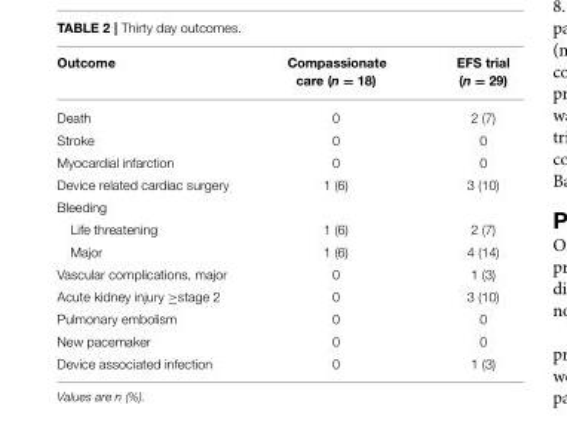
<table><thead><tr><td>Outcome</td><td>Compassionate care (n = 18)</td><td>EFS trial (n = 29)</td></tr></thead><tbody><tr><td>Death</td><td>0</td><td>2 (7)</td></tr><tr><td>Stroke</td><td>0</td><td>0</td></tr><tr><td>Myocardial infarction</td><td>0</td><td>0</td></tr><tr><td>Device related cardiac surgery</td><td>1 (6)</td><td>3 (10)</td></tr><tr><td colspan="3">Bleeding</td></tr><tr><td>Life threatening</td><td>1 (6)</td><td>2 (7)</td></tr><tr><td>Major</td><td>1 (6)</td><td>4 (14)</td></tr><tr><td>Vascular complications, major</td><td>0</td><td>1 (3)</td></tr><tr><td>Acute kidney injury ≥stage 2</td><td>0</td><td>3 (10)</td></tr><tr><td>Pulmonary embolism</td><td>0</td><td>0</td></tr><tr><td>New pacemaker</td><td>0</td><td>0</td></tr><tr><td>Device associated infection</td><td>0</td><td>1 (3)</td></tr></tbody></table>